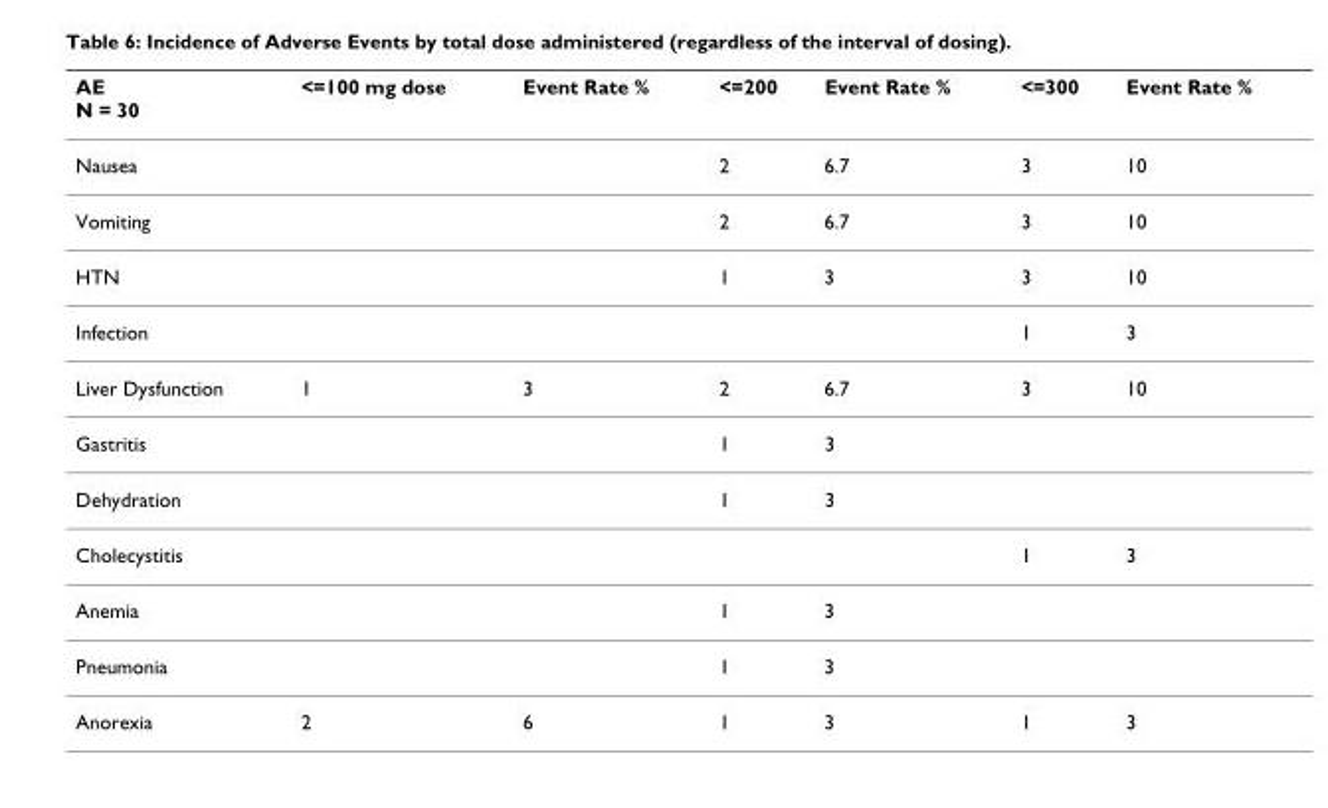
<table><thead><tr><td>AE N = 30</td><td>&lt;=100 mg dose</td><td>Event Rate %</td><td>&lt;=200</td><td>Event Rate %</td><td>&lt;=300</td><td>Event Rate %</td></tr></thead><tbody><tr><td>Nausea</td><td></td><td></td><td>2</td><td>6.7</td><td>3</td><td>10</td></tr><tr><td>Vomiting</td><td></td><td></td><td>2</td><td>6.7</td><td>3</td><td>10</td></tr><tr><td>HTN</td><td></td><td></td><td>1</td><td>3</td><td>3</td><td>10</td></tr><tr><td>Infection</td><td></td><td></td><td></td><td></td><td>1</td><td>3</td></tr><tr><td>Liver Dysfunction</td><td>1</td><td>3</td><td>2</td><td>6.7</td><td>3</td><td>10</td></tr><tr><td>Gastritis</td><td></td><td></td><td>1</td><td>3</td><td></td><td></td></tr><tr><td>Dehydration</td><td></td><td></td><td>1</td><td>3</td><td></td><td></td></tr><tr><td>Cholecystitis</td><td></td><td></td><td></td><td></td><td>1</td><td>3</td></tr><tr><td>Anemia</td><td></td><td></td><td>1</td><td>3</td><td></td><td></td></tr><tr><td>Pneumonia</td><td></td><td></td><td>1</td><td>3</td><td></td><td></td></tr><tr><td>Anorexia</td><td>2</td><td>6</td><td>1</td><td>3</td><td>1</td><td>3</td></tr></tbody></table>